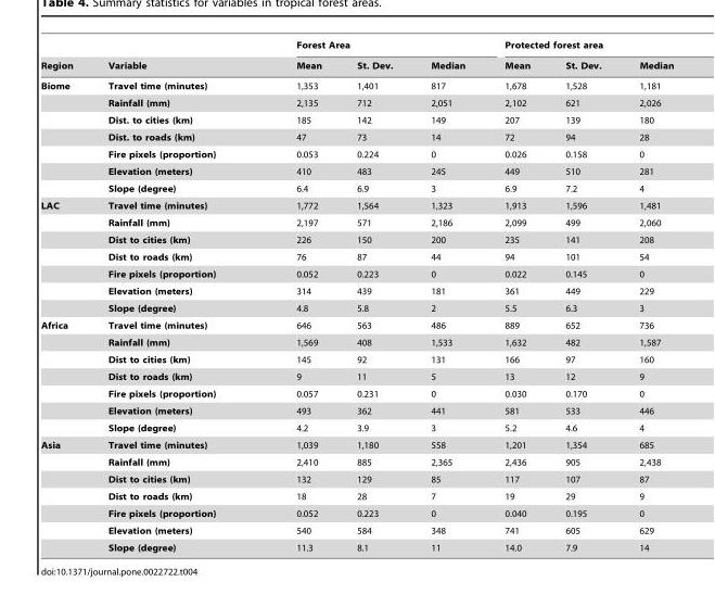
<table><thead><tr><td rowspan="2">Region</td><td rowspan="2">Variable</td><td colspan="3">Forest Area</td><td colspan="3">Protected forest area</td></tr><tr><td>Mean</td><td>St. Dev.</td><td>Median</td><td>Mean</td><td>St. Dev.</td><td>Median</td></tr></thead><tbody><tr><td rowspan="7">Biome</td><td>Travel time (minutes)</td><td>1,353</td><td>1,401</td><td>817</td><td>1,678</td><td>1,528</td><td>1,181</td></tr><tr><td>Rainfall (mm)</td><td>2,135</td><td>712</td><td>2,051</td><td>2,102</td><td>621</td><td>2,026</td></tr><tr><td>Dist. to cities (km)</td><td>185</td><td>142</td><td>149</td><td>207</td><td>139</td><td>180</td></tr><tr><td>Dist. to roads (km)</td><td>47</td><td>73</td><td>14</td><td>72</td><td>94</td><td>28</td></tr><tr><td>Fire pixels (proportion)</td><td>0.053</td><td>0.224</td><td>0</td><td>0.026</td><td>0.158</td><td>0</td></tr><tr><td>Elevation (meters)</td><td>410</td><td>483</td><td>245</td><td>449</td><td>510</td><td>281</td></tr><tr><td>Slope (degree)</td><td>6.4</td><td>6.9</td><td>3</td><td>6.9</td><td>7.2</td><td>4</td></tr><tr><td rowspan="7">LAC</td><td>Travel time (minutes)</td><td>1,772</td><td>1,564</td><td>1,323</td><td>1,913</td><td>1,596</td><td>1,481</td></tr><tr><td>Rainfall (mm)</td><td>2,197</td><td>571</td><td>2,186</td><td>2,099</td><td>499</td><td>2,060</td></tr><tr><td>Dist to cities (km)</td><td>226</td><td>150</td><td>200</td><td>235</td><td>141</td><td>208</td></tr><tr><td>Dist to roads (km)</td><td>76</td><td>87</td><td>44</td><td>94</td><td>101</td><td>54</td></tr><tr><td>Fire pixels (proportion)</td><td>0.052</td><td>0.223</td><td>0</td><td>0.022</td><td>0.145</td><td>0</td></tr><tr><td>Elevation (meters)</td><td>314</td><td>439</td><td>181</td><td>361</td><td>449</td><td>229</td></tr><tr><td>Slope (degree)</td><td>4.8</td><td>5.8</td><td>2</td><td>5.5</td><td>6.3</td><td>3</td></tr><tr><td rowspan="7">Africa</td><td>Travel time (minutes)</td><td>646</td><td>563</td><td>486</td><td>889</td><td>652</td><td>736</td></tr><tr><td>Rainfall (mm)</td><td>1,569</td><td>408</td><td>1,533</td><td>1,632</td><td>482</td><td>1,587</td></tr><tr><td>Dist to cities (km)</td><td>145</td><td>92</td><td>131</td><td>166</td><td>97</td><td>160</td></tr><tr><td>Dist to roads (km)</td><td>9</td><td>11</td><td>5</td><td>13</td><td>12</td><td>9</td></tr><tr><td>Fire pixels (proportion)</td><td>0.057</td><td>0.231</td><td>0</td><td>0.030</td><td>0.170</td><td>0</td></tr><tr><td>Elevation (meters)</td><td>493</td><td>362</td><td>441</td><td>581</td><td>533</td><td>446</td></tr><tr><td>Slope (degree)</td><td>4.2</td><td>3.9</td><td>3</td><td>5.2</td><td>4.6</td><td>4</td></tr><tr><td rowspan="7">Asia</td><td>Travel time (minutes)</td><td>1,039</td><td>1,180</td><td>558</td><td>1,201</td><td>1,354</td><td>685</td></tr><tr><td>Rainfall (mm)</td><td>2,410</td><td>885</td><td>2,365</td><td>2,436</td><td>905</td><td>2,438</td></tr><tr><td>Dist to cities (km)</td><td>132</td><td>129</td><td>85</td><td>117</td><td>107</td><td>87</td></tr><tr><td>Dist to roads (km)</td><td>18</td><td>28</td><td>7</td><td>19</td><td>29</td><td>9</td></tr><tr><td>Fire pixels (proportion)</td><td>0.052</td><td>0.223</td><td>0</td><td>0.040</td><td>0.195</td><td>0</td></tr><tr><td>Elevation (meters)</td><td>540</td><td>584</td><td>348</td><td>741</td><td>605</td><td>629</td></tr><tr><td>Slope (degree)</td><td>11.3</td><td>8.1</td><td>11</td><td>14.0</td><td>7.9</td><td>14</td></tr></tbody></table>